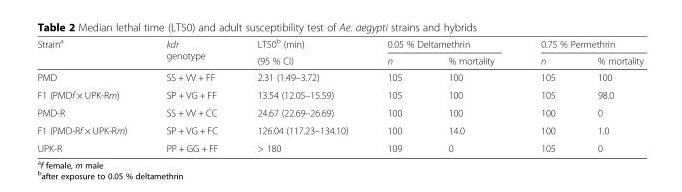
<table><thead><tr><td rowspan="2">Strain<sup>a</sup></td><td rowspan="2">kdr genotype</td><td rowspan="2">LT50<sup>b</sup> (min) (95 % CI)</td><td colspan="2">0.05 % Deltamethrin</td><td colspan="2">0.75 % Permethrin</td></tr><tr><td>n</td><td>% mortality</td><td>n</td><td>% mortality</td></tr></thead><tbody><tr><td>PMD</td><td>SS + VV + FF</td><td>2.31 (1.49–3.72)</td><td>105</td><td>100</td><td>105</td><td>100</td></tr><tr><td>F1 (PMDf × UPK-Rm)</td><td>SP + VG + FF</td><td>13.54 (12.05–15.59)</td><td>105</td><td>100</td><td>105</td><td>98.0</td></tr><tr><td>PMD-R</td><td>SS + VV + CC</td><td>24.67 (22.69–26.69)</td><td>100</td><td>100</td><td>100</td><td>0</td></tr><tr><td>F1 (PMD-Rf × UPK-Rm)</td><td>SP + VG + FC</td><td>126.04 (117.23–134.10)</td><td>100</td><td>14.0</td><td>100</td><td>1.0</td></tr><tr><td>UPK-R</td><td>PP + GG + FF</td><td>&gt; 180</td><td>109</td><td>0</td><td>105</td><td>0</td></tr></tbody></table>